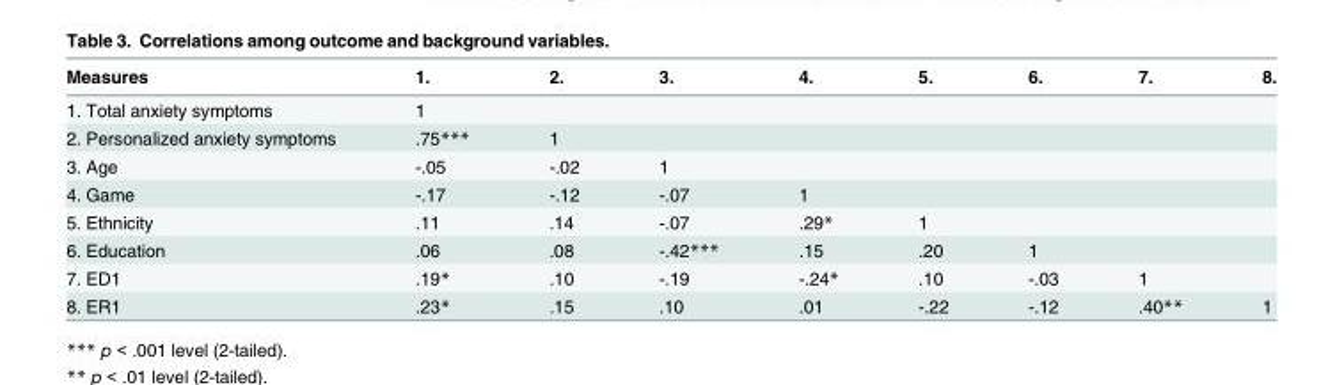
<table><thead><tr><td>Measures</td><td>1.</td><td>2.</td><td>3.</td><td>4.</td><td>5.</td><td>6.</td><td>7.</td><td>8.</td></tr></thead><tbody><tr><td>1. Total anxiety symptoms</td><td>1</td><td></td><td></td><td></td><td></td><td></td><td></td><td></td></tr><tr><td>2. Personalized anxiety symptoms</td><td>.75***</td><td>1</td><td></td><td></td><td></td><td></td><td></td><td></td></tr><tr><td>3. Age</td><td>-.05</td><td>-.02</td><td>1</td><td></td><td></td><td></td><td></td><td></td></tr><tr><td>4. Game</td><td>-.17</td><td>-.12</td><td>-.07</td><td>1</td><td></td><td></td><td></td><td></td></tr><tr><td>5. Ethnicity</td><td>.11</td><td>.14</td><td>-.07</td><td>.29*</td><td>1</td><td></td><td></td><td></td></tr><tr><td>6. Education</td><td>.06</td><td>.08</td><td>-.42***</td><td>.15</td><td>.20</td><td>1</td><td></td><td></td></tr><tr><td>7. ED1</td><td>.19*</td><td>.10</td><td>-.19</td><td>-.24*</td><td>.10</td><td>-.03</td><td>1</td><td></td></tr><tr><td>8. ER1</td><td>.23*</td><td>.15</td><td>.10</td><td>.01</td><td>-.22</td><td>-.12</td><td>.40**</td><td>1</td></tr></tbody></table>